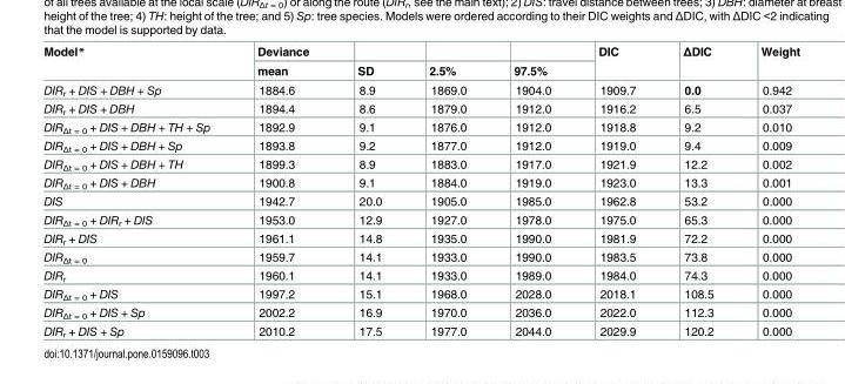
<table><thead><tr><td rowspan="2">Model*</td><td rowspan="2">Deviance mean</td><td rowspan="2">SD</td><td rowspan="2">2.5%</td><td rowspan="2">97.5%</td><td rowspan="2">DIC</td><td rowspan="2">ΔDIC</td><td rowspan="2">Weight</td></tr><tr></tr></thead><tbody><tr><td>DIR<sub>r</sub> + DIS + DBH + Sp</td><td>1884.6</td><td>8.9</td><td>1869.0</td><td>1904.0</td><td>1909.7</td><td>0.0</td><td>0.942</td></tr><tr><td>DIR<sub>r</sub> + DIS + DBH</td><td>1894.4</td><td>8.6</td><td>1879.0</td><td>1912.0</td><td>1916.2</td><td>6.5</td><td>0.037</td></tr><tr><td>DIR<sub>Δt = 0</sub> + DIS + DBH + TH + Sp</td><td>1892.9</td><td>9.1</td><td>1876.0</td><td>1912.0</td><td>1918.8</td><td>9.2</td><td>0.010</td></tr><tr><td>DIR<sub>Δt = 0</sub> + DIS + DBH + Sp</td><td>1893.8</td><td>9.2</td><td>1877.0</td><td>1912.0</td><td>1919.0</td><td>9.4</td><td>0.009</td></tr><tr><td>DIR<sub>Δt = 0</sub> + DIS + DBH + TH</td><td>1899.3</td><td>8.9</td><td>1883.0</td><td>1917.0</td><td>1921.9</td><td>12.2</td><td>0.002</td></tr><tr><td>DIR<sub>Δt = 0</sub> + DIS + DBH</td><td>1900.8</td><td>9.1</td><td>1884.0</td><td>1919.0</td><td>1923.0</td><td>13.3</td><td>0.001</td></tr><tr><td>DIS</td><td>1942.7</td><td>20.0</td><td>1905.0</td><td>1985.0</td><td>1962.8</td><td>53.2</td><td>0.000</td></tr><tr><td>DIR<sub>Δt = 0</sub> + DIR<sub>r</sub> + DIS</td><td>1953.0</td><td>12.9</td><td>1927.0</td><td>1978.0</td><td>1975.0</td><td>65.3</td><td>0.000</td></tr><tr><td>DIR<sub>r</sub> + DIS</td><td>1961.1</td><td>14.8</td><td>1935.0</td><td>1990.0</td><td>1981.9</td><td>72.2</td><td>0.000</td></tr><tr><td>DIR<sub>Δt = 0</sub></td><td>1959.7</td><td>14.1</td><td>1933.0</td><td>1990.0</td><td>1983.5</td><td>73.8</td><td>0.000</td></tr><tr><td>DIR<sub>r</sub></td><td>1960.1</td><td>14.1</td><td>1933.0</td><td>1989.0</td><td>1984.0</td><td>74.3</td><td>0.000</td></tr><tr><td>DIR<sub>Δt = 0</sub> + DIS</td><td>1997.2</td><td>15.1</td><td>1968.0</td><td>2028.0</td><td>2018.1</td><td>108.5</td><td>0.000</td></tr><tr><td>DIR<sub>Δt = 0</sub> + DIS + Sp</td><td>2002.2</td><td>16.9</td><td>1970.0</td><td>2036.0</td><td>2022.0</td><td>112.3</td><td>0.000</td></tr><tr><td>DIR<sub>r</sub> + DIS + Sp</td><td>2010.2</td><td>17.5</td><td>1977.0</td><td>2044.0</td><td>2029.9</td><td>120.2</td><td>0.000</td></tr></tbody></table>